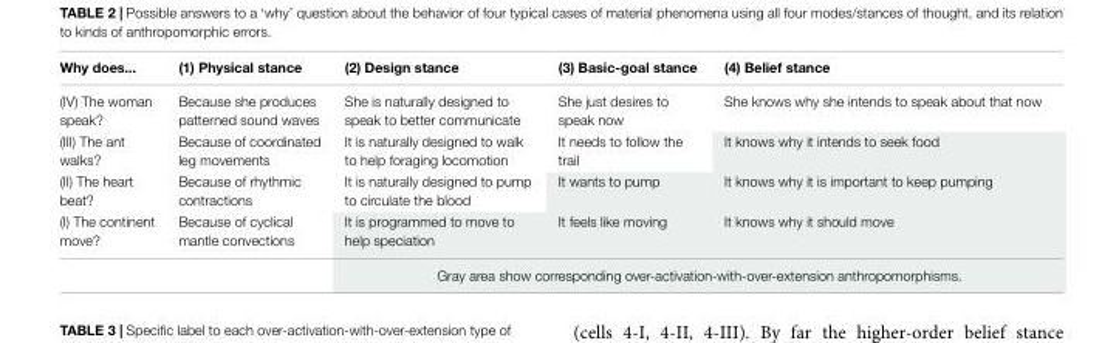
<table><thead><tr><td>Why does...</td><td>(1) Physical stance</td><td>(2) Design stance</td><td>(3) Basic-goal stance</td><td>(4) Belief stance</td></tr></thead><tbody><tr><td>(IV) The woman speak?</td><td>Because she produces patterned sound waves</td><td>She is naturally designed to speak to better communicate</td><td>She just desires to speak now</td><td>She knows why she intends to speak about that now</td></tr><tr><td>(III) The ant walks?</td><td>Because of coordinated leg movements</td><td>It is naturally designed to walk to help foraging locomotion</td><td>It needs to follow the trail</td><td>It knows why it intends to seek food</td></tr><tr><td>(II) The heart beat?</td><td>Because of rhythmic contractions</td><td>It is naturally designed to pump to circulate the blood</td><td>It wants to pump</td><td>It knows why it is important to keep pumping</td></tr><tr><td rowspan="2">(I) The continent move?</td><td>Because of cyclical mantle convections</td><td>It is programmed to move to help speciation</td><td>It feels like moving</td><td>It knows why it should move</td></tr><tr><td></td><td colspan="3">Gray area show corresponding over-activation-with-over-extension anthropomorphisms.</td></tr></tbody></table>